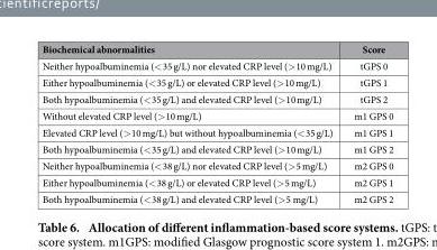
<table><thead><tr><td>Biochemical abnormalities</td><td>Score</td></tr></thead><tbody><tr><td>Neither hypoalbuminemia (&lt; 35 g/L) nor elevated CRP level (&gt; 10 mg/L)</td><td>tGPS 0</td></tr><tr><td>Either hypoalbuminemia (&lt; 35 g/L) or elevated CRP level (&gt; 10 mg/L)</td><td>tGPS 1</td></tr><tr><td>Both hypoalbuminemia (&lt; 35 g/L) and elevated CRP level (&gt; 10 mg/L)</td><td>tGPS 2</td></tr><tr><td>Without elevated CRP level (&gt; 10 mg/L)</td><td>m1 GPS 0</td></tr><tr><td>Elevated CRP level (&gt; 10 mg/L) but without hypoalbuminemia (&lt; 35 g/L)</td><td>m1 GPS 1</td></tr><tr><td>Both hypoalbuminemia (&lt; 35 g/L) and elevated CRP level (&gt; 10 mg/L)</td><td>m1 GPS 2</td></tr><tr><td>Neither hypoalbuminemia (&lt; 38 g/L) nor elevated CRP level (&gt; 5 mg/L)</td><td>m2 GPS 0</td></tr><tr><td>Either hypoalbuminemia (&lt; 38 g/L) or elevated CRP level (&gt; 5 mg/L)</td><td>m2 GPS 1</td></tr><tr><td>Both hypoalbuminemia (&lt; 38 g/L) and elevated CRP level (&gt; 5 mg/L)</td><td>m2 GPS 2</td></tr></tbody></table>